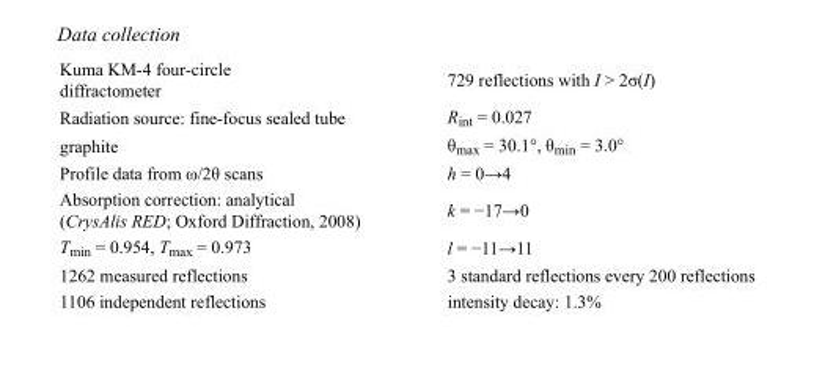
<table><tbody><tr><td>Kuma KM-4 four-circle diffractometer</td><td>729 reflections with I &gt; 2σ(I)</td></tr><tr><td>Radiation source: fine-focus sealed tube</td><td>R<sub>int</sub> = 0.027</td></tr><tr><td>graphite</td><td>θ<sub>max</sub> = 30.1°, θ<sub>min</sub> = 3.0°</td></tr><tr><td>Profile data from ω/2θ scans</td><td>h = 0→4</td></tr><tr><td>Absorption correction: analytical (CrysAlis RED; Oxford Diffraction, 2008)</td><td>k = −17→0</td></tr><tr><td>T<sub>min</sub> = 0.954, T<sub>max</sub> = 0.973</td><td>l = −11→11</td></tr><tr><td>1262 measured reflections</td><td>3 standard reflections every 200 reflections</td></tr><tr><td>1106 independent reflections</td><td>intensity decay: 1.3%</td></tr></tbody></table>